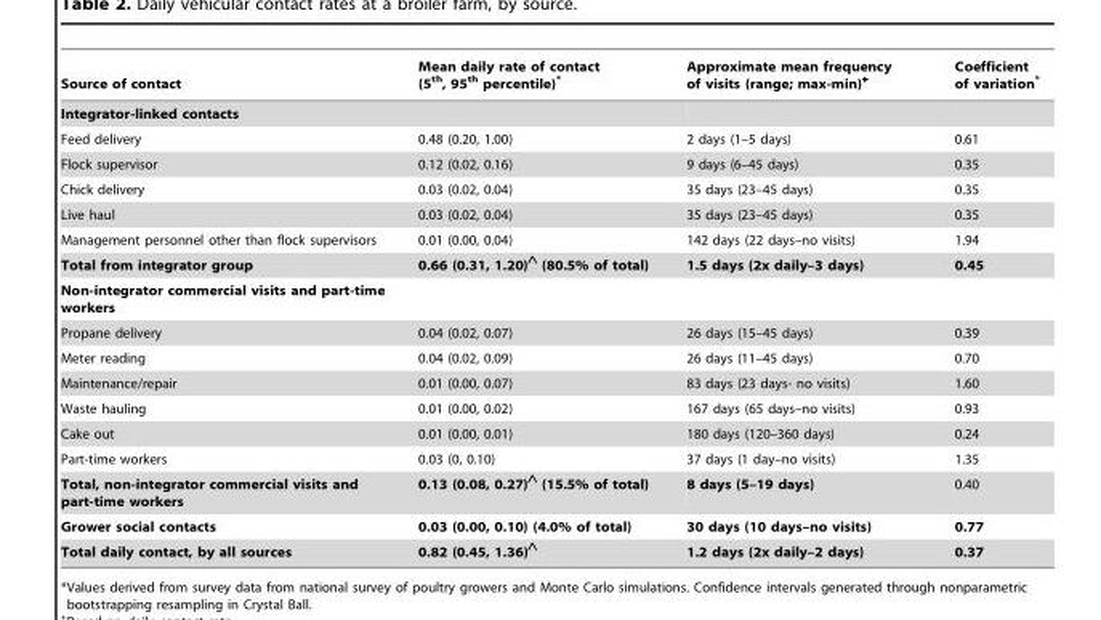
<table><thead><tr><td>Source of contact</td><td>Mean daily rate of contact (5<sup>th</sup>, 95<sup>th</sup> percentile)*</td><td>Approximate mean frequency of visits (range; max-min)+</td><td>Coefficient of variation*</td></tr></thead><tbody><tr><td colspan="4">Integrator-linked contacts</td></tr><tr><td>Feed delivery</td><td>0.48 (0.20, 1.00)</td><td>2 days (1–5 days)</td><td>0.61</td></tr><tr><td>Flock supervisor</td><td>0.12 (0.02, 0.16)</td><td>9 days (6–45 days)</td><td>0.35</td></tr><tr><td>Chick delivery</td><td>0.03 (0.02, 0.04)</td><td>35 days (23–45 days)</td><td>0.35</td></tr><tr><td>Live haul</td><td>0.03 (0.02, 0.04)</td><td>35 days (23–45 days)</td><td>0.35</td></tr><tr><td>Management personnel other than flock supervisors</td><td>0.01 (0.00, 0.04)</td><td>142 days (22 days–no visits)</td><td>1.94</td></tr><tr><td>Total from integrator group</td><td>0.66 (0.31, 1.20)‘ (80.5% of total)</td><td>1.5 days (2x daily–3 days)</td><td>0.45</td></tr><tr><td colspan="4">Non-integrator commercial visits and part-time workers</td></tr><tr><td>Propane delivery</td><td>0.04 (0.02, 0.07)</td><td>26 days (15–45 days)</td><td>0.39</td></tr><tr><td>Meter reading</td><td>0.04 (0.02, 0.09)</td><td>26 days (11–45 days)</td><td>0.70</td></tr><tr><td>Maintenance/repair</td><td>0.01 (0.00, 0.07)</td><td>83 days (23 days- no visits)</td><td>1.60</td></tr><tr><td>Waste hauling</td><td>0.01 (0.00, 0.02)</td><td>167 days (65 days–no visits)</td><td>0.93</td></tr><tr><td>Cake out</td><td>0.01 (0.00, 0.01)</td><td>180 days (120–360 days)</td><td>0.24</td></tr><tr><td>Part-time workers</td><td>0.03 (0, 0.10)</td><td>37 days (1 day–no visits)</td><td>1.35</td></tr><tr><td>Total, non-integrator commercial visits and part-time workers</td><td>0.13 (0.08, 0.27)‘ (15.5% of total)</td><td>8 days (5–19 days)</td><td>0.40</td></tr><tr><td>Grower social contacts</td><td>0.03 (0.00, 0.10) (4.0% of total)</td><td>30 days (10 days–no visits)</td><td>0.77</td></tr><tr><td>Total daily contact, by all sources</td><td>0.82 (0.45, 1.36)‘</td><td>1.2 days (2x daily–2 days)</td><td>0.37</td></tr></tbody></table>